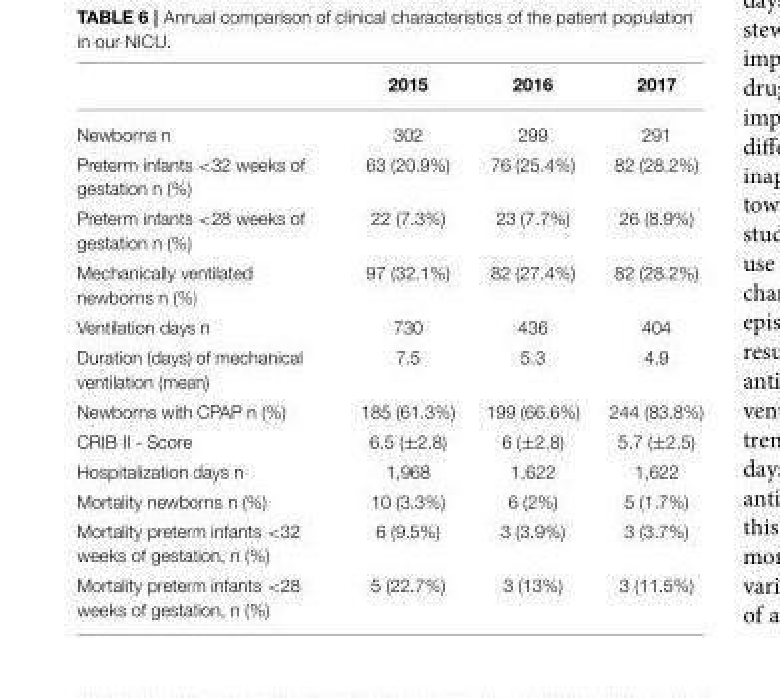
<table><thead><tr><td></td><td>2015</td><td>2016</td><td>2017</td></tr></thead><tbody><tr><td>Newborns n</td><td>302</td><td>299</td><td>291</td></tr><tr><td>Preterm infants &lt;32 weeks of gestation n (%)</td><td>63 (20.9%)</td><td>76 (25.4%)</td><td>82 (28.2%)</td></tr><tr><td>Preterm infants &lt;28 weeks of gestation n (%)</td><td>22 (7.3%)</td><td>23 (7.7%)</td><td>26 (8.9%)</td></tr><tr><td>Mechanically ventilated newborns n (%)</td><td>97 (32.1%)</td><td>82 (27.4%)</td><td>82 (28.2%)</td></tr><tr><td>Ventilation days n</td><td>730</td><td>436</td><td>404</td></tr><tr><td>Duration (days) of mechanical ventilation (mean)</td><td>7.5</td><td>5.3</td><td>4.9</td></tr><tr><td>Newborns with CPAP n (%)</td><td>185 (61.3%)</td><td>199 (66.6%)</td><td>244 (83.8%)</td></tr><tr><td>CRIB II - Score</td><td>6.5 (±2.8)</td><td>6 (±2.8)</td><td>5.7 (±2.5)</td></tr><tr><td>Hospitalization days n</td><td>1,968</td><td>1,622</td><td>1,622</td></tr><tr><td>Mortality newborns n (%)</td><td>10 (3.3%)</td><td>6 (2%)</td><td>5 (1.7%)</td></tr><tr><td>Mortality preterm infants &lt;32 weeks of gestation, n (%)</td><td>6 (9.5%)</td><td>3 (3.9%)</td><td>3 (3.7%)</td></tr><tr><td>Mortality preterm infants &lt;28 weeks of gestation, n (%)</td><td>5 (22.7%)</td><td>3 (13%)</td><td>3 (11.5%)</td></tr></tbody></table>